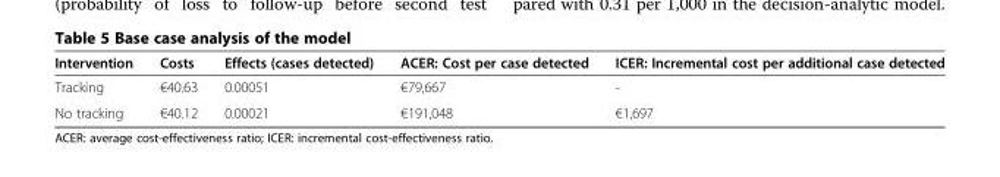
<table><thead><tr><td>Intervention</td><td>Costs</td><td>Effects (cases detected)</td><td>ACER: Cost per case detected</td><td>ICER: Incremental cost per additional case detected</td></tr></thead><tbody><tr><td>Tracking</td><td>€40.63</td><td>0.00051</td><td>€79,667</td><td>-</td></tr><tr><td>No tracking</td><td>€40.12</td><td>0.00021</td><td>€191,048</td><td>€1,697</td></tr></tbody></table>